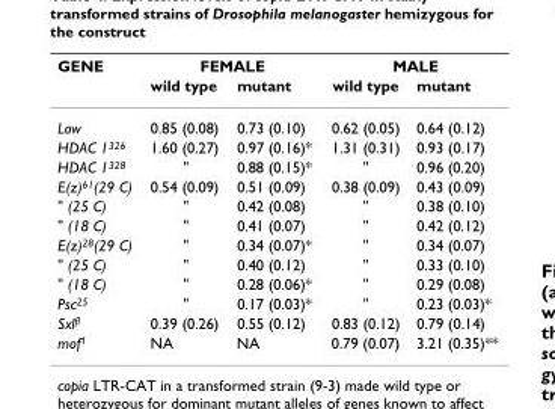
<table><thead><tr><td rowspan="2">GENE</td><td colspan="2">FEMALE</td><td colspan="2">MALE</td></tr><tr><td>wild type</td><td>mutant</td><td>wild type</td><td>mutant</td></tr></thead><tbody><tr><td>Low</td><td>0.85 (0.08)</td><td>0.73 (0.10)</td><td>0.62 (0.05)</td><td>0.64 (0.12)</td></tr><tr><td>HDAC 1<sup>326</sup></td><td>1.60 (0.27)</td><td>0.97 (0.16)*</td><td>1.31 (0.31)</td><td>0.93 (0.17)</td></tr><tr><td>HDAC 1<sup>328</sup></td><td>&quot;</td><td>0.88 (0.15)*</td><td>&quot;</td><td>0.96 (0.20)</td></tr><tr><td>E(z)<sup>61</sup>(29 C)</td><td>0.54 (0.09)</td><td>0.51 (0.09)</td><td>0.38 (0.09)</td><td>0.43 (0.09)</td></tr><tr><td>&quot; (25 C)</td><td>&quot;</td><td>0.42 (0.08)</td><td>&quot;</td><td>0.38 (0.10)</td></tr><tr><td>&quot; (18 C)</td><td>&quot;</td><td>0.41 (0.07)</td><td>&quot;</td><td>0.42 (0.12)</td></tr><tr><td>E(z)<sup>28</sup>(29 C)</td><td>&quot;</td><td>0.34 (0.07)*</td><td>&quot;</td><td>0.34 (0.07)</td></tr><tr><td>&quot; (25 C)</td><td>&quot;</td><td>0.40 (0.12)</td><td>&quot;</td><td>0.33 (0.10)</td></tr><tr><td>&quot; (18 C)</td><td>&quot;</td><td>0.28 (0.06)*</td><td>&quot;</td><td>0.29 (0.08)</td></tr><tr><td>Psc<sup>25</sup></td><td>&quot;</td><td>0.17 (0.03)*</td><td>&quot;</td><td>0.23 (0.03)*</td></tr><tr><td>Sxl<sup>fl</sup></td><td>0.39 (0.26)</td><td>0.55 (0.12)</td><td>0.83 (0.12)</td><td>0.79 (0.14)</td></tr><tr><td>mof<sup>1</sup></td><td>NA</td><td>NA</td><td>0.79 (0.07)</td><td>3.21 (0.35)**</td></tr></tbody></table>